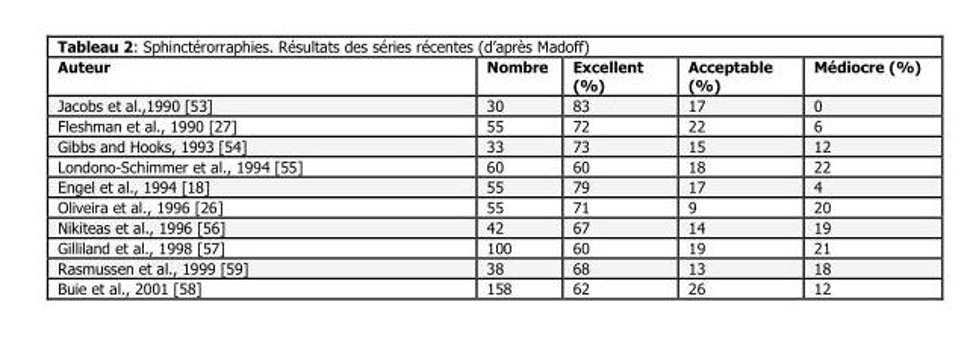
<table><thead><tr><td>Auteur</td><td>Nombre</td><td>Excellent (%)</td><td>Acceptable (%)</td><td>Médiocre (%)</td></tr></thead><tbody><tr><td>Jacobs et al.,1990 [53]</td><td>30</td><td>83</td><td>17</td><td>0</td></tr><tr><td>Fleshman et al., 1990 [27]</td><td>55</td><td>72</td><td>22</td><td>6</td></tr><tr><td>Gibbs and Hooks, 1993 [54]</td><td>33</td><td>73</td><td>15</td><td>12</td></tr><tr><td>Londono-Schimmer et al., 1994 [55]</td><td>60</td><td>60</td><td>18</td><td>22</td></tr><tr><td>Engel et al., 1994 [18]</td><td>55</td><td>79</td><td>17</td><td>4</td></tr><tr><td>Oliveira et al., 1996 [26]</td><td>55</td><td>71</td><td>9</td><td>20</td></tr><tr><td>Nikiteas et al., 1996 [56]</td><td>42</td><td>67</td><td>14</td><td>19</td></tr><tr><td>Gilliland et al., 1998 [57]</td><td>100</td><td>60</td><td>19</td><td>21</td></tr><tr><td>Rasmussen et al., 1999 [59]</td><td>38</td><td>68</td><td>13</td><td>18</td></tr><tr><td>Buie et al., 2001 [58]</td><td>158</td><td>62</td><td>26</td><td>12</td></tr></tbody></table>